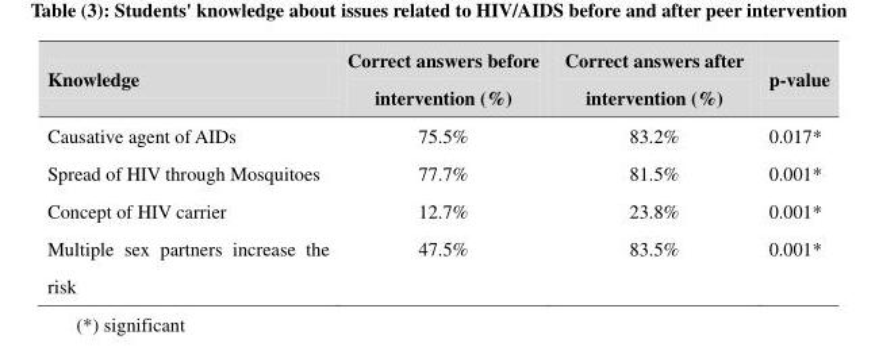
<table><thead><tr><td>Knowledge</td><td>Correct answers before intervention (%)</td><td>Correct answers after intervention (%)</td><td>p-value</td></tr></thead><tbody><tr><td>Causative agent of AIDs</td><td>75.5%</td><td>83.2%</td><td>0.017*</td></tr><tr><td>Spread of HIV through Mosquitoes</td><td>77.7%</td><td>81.5%</td><td>0.001*</td></tr><tr><td>Concept of HIV carrier</td><td>12.7%</td><td>23.8%</td><td>0.001*</td></tr><tr><td>Multiple sex partners increase the risk</td><td>47.5%</td><td>83.5%</td><td>0.001*</td></tr></tbody></table>